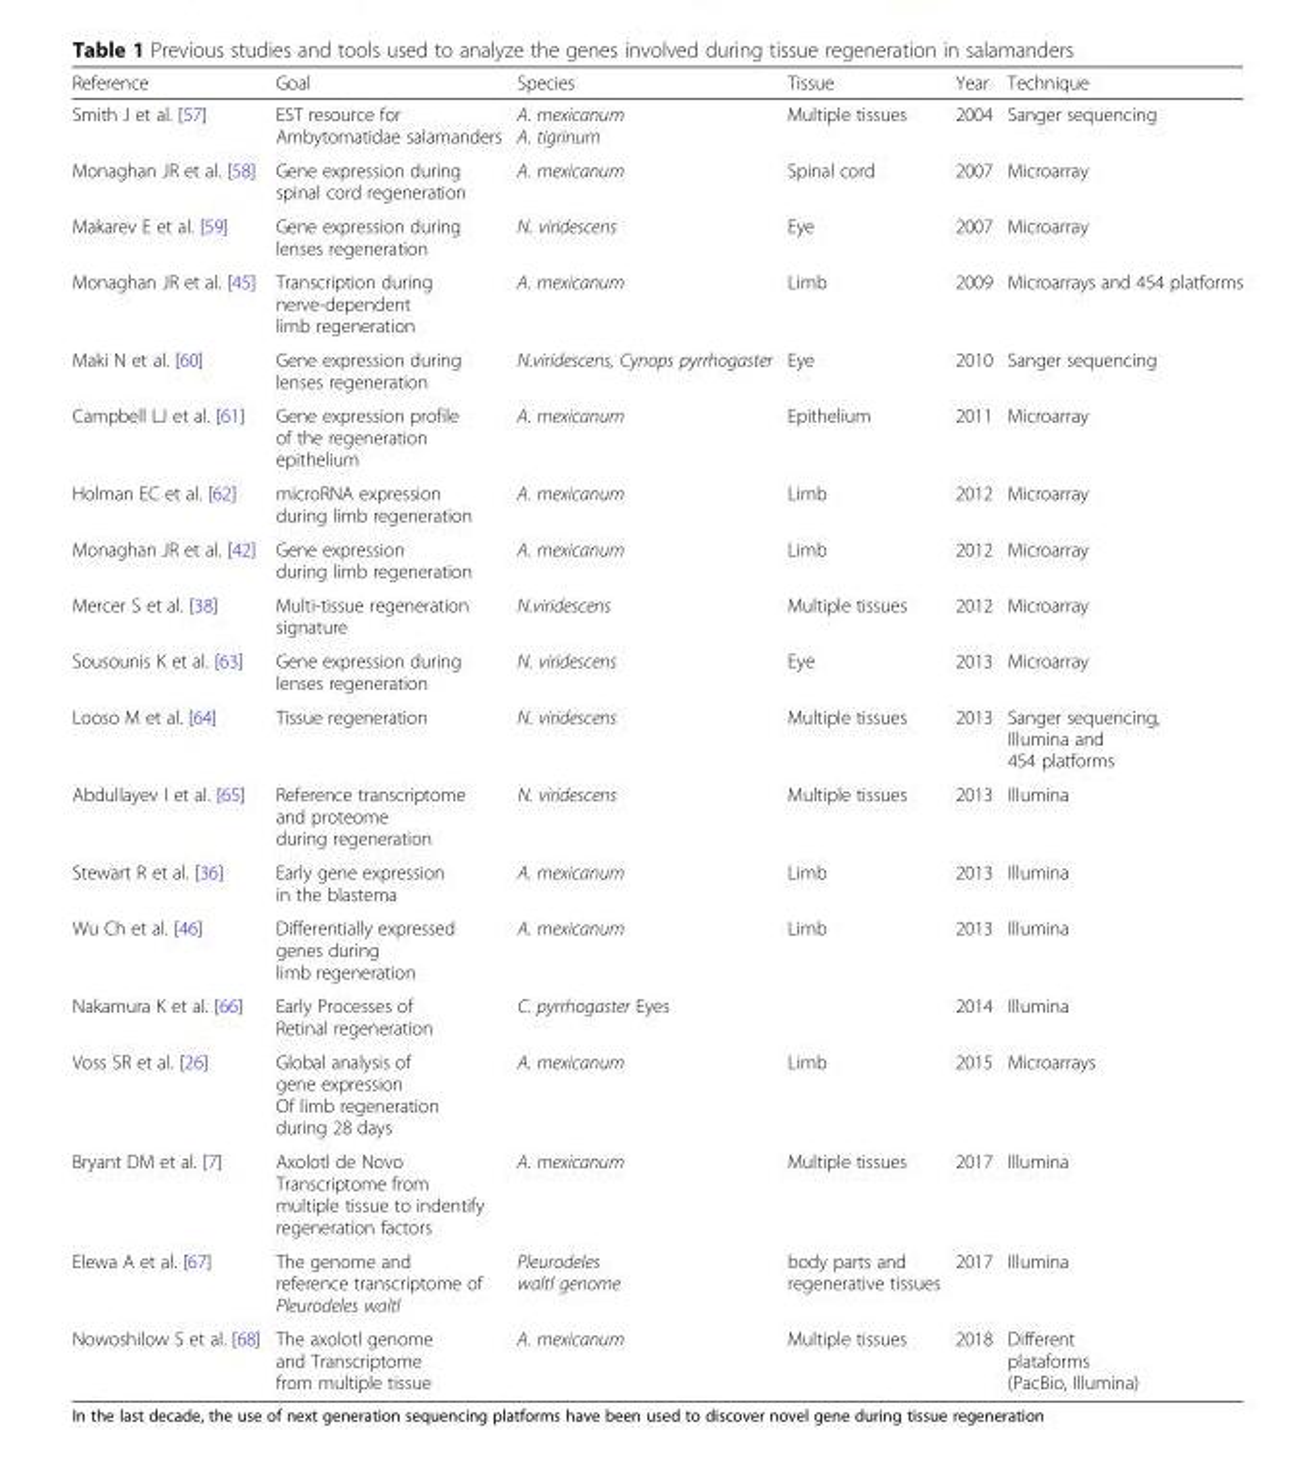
<table><thead><tr><td>Reference</td><td>Goal</td><td>Species</td><td>Tissue</td><td>Year</td><td>Technique</td></tr></thead><tbody><tr><td>Smith J et al. [57]</td><td>EST resource for Ambytomatidae salamanders</td><td>A. mexicanum A. tigrinum</td><td>Multiple tissues</td><td>2004</td><td>Sanger sequencing</td></tr><tr><td>Monaghan JR et al. [58]</td><td>Gene expression during spinal cord regeneration</td><td>A. mexicanum</td><td>Spinal cord</td><td>2007</td><td>Microarray</td></tr><tr><td>Makarev E et al. [59]</td><td>Gene expression during lenses regeneration</td><td>N. viridescens</td><td>Eye</td><td>2007</td><td>Microarray</td></tr><tr><td>Monaghan JR et al. [45]</td><td>Transcription during nerve-dependent limb regeneration</td><td>A. mexicanum</td><td>Limb</td><td>2009</td><td>Microarrays and 454 platforms</td></tr><tr><td>Maki N et al. [60]</td><td>Gene expression during lenses regeneration</td><td>N.viridescens, Cynops pyrrhogaster</td><td>Eye</td><td>2010</td><td>Sanger sequencing</td></tr><tr><td>Campbell LJ et al. [61]</td><td>Gene expression profile of the regeneration epithelium</td><td>A. mexicanum</td><td>Epithelium</td><td>2011</td><td>Microarray</td></tr><tr><td>Holman EC et al. [62]</td><td>microRNA expression during limb regeneration</td><td>A. mexicanum</td><td>Limb</td><td>2012</td><td>Microarray</td></tr><tr><td>Monaghan JR et al. [42]</td><td>Gene expression during limb regeneration</td><td>A. mexicanum</td><td>Limb</td><td>2012</td><td>Microarray</td></tr><tr><td>Mercer S et al. [38]</td><td>Multi-tissue regeneration signature</td><td>N.viridescens</td><td>Multiple tissues</td><td>2012</td><td>Microarray</td></tr><tr><td>Sousounis K et al. [63]</td><td>Gene expression during lenses regeneration</td><td>N. viridescens</td><td>Eye</td><td>2013</td><td>Microarray</td></tr><tr><td>Looso M et al. [64]</td><td>Tissue regeneration</td><td>N. viridescens</td><td>Multiple tissues</td><td>2013</td><td>Sanger sequencing, Illumina and 454 platforms</td></tr><tr><td>Abdullayev I et al. [65]</td><td>Reference transcriptome and proteome during regeneration</td><td>N. viridescens</td><td>Multiple tissues</td><td>2013</td><td>Illumina</td></tr><tr><td>Stewart R et al. [36]</td><td>Early gene expression in the blastema</td><td>A. mexicanum</td><td>Limb</td><td>2013</td><td>Illumina</td></tr><tr><td>Wu Ch et al. [46]</td><td>Differentially expressed genes during limb regeneration</td><td>A. mexicanum</td><td>Limb</td><td>2013</td><td>Illumina</td></tr><tr><td>Nakamura K et al. [66]</td><td>Early Processes of Retinal regeneration</td><td colspan="2">C. pyrrhogaster Eyes</td><td>2014</td><td>Illumina</td></tr><tr><td>Voss SR et al. [26]</td><td>Global analysis of gene expression Of limb regeneration during 28 days</td><td>A. mexicanum</td><td>Limb</td><td>2015</td><td>Microarrays</td></tr><tr><td>Bryant DM et al. [7]</td><td>Axolotl de Novo Transcriptome from multiple tissue to indentify regeneration factors</td><td>A. mexicanum</td><td>Multiple tissues</td><td>2017</td><td>Illumina</td></tr><tr><td>Elewa A et al. [67]</td><td>The genome and reference transcriptome of Pleurodeles waltl</td><td>Pleurodeles waltl genome</td><td>body parts and regenerative tissues</td><td>2017</td><td>Illumina</td></tr><tr><td>Nowoshilow S et al. [68]</td><td>The axolotl genome and Transcriptome from multiple tissue</td><td>A. mexicanum</td><td>Multiple tissues</td><td>2018</td><td>Different plataforms (PacBio, Illumina)</td></tr></tbody></table>